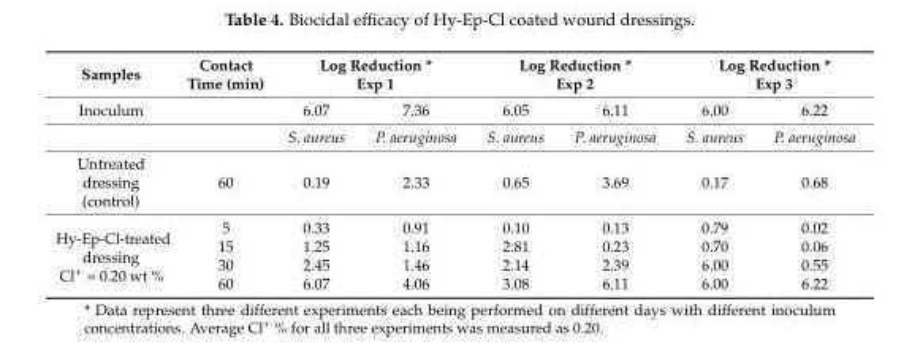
<table><thead><tr><td rowspan="2">Samples Inoculum</td><td rowspan="2">Contact Time (min)</td><td colspan="2">Log Reduction * Exp 1</td><td colspan="2">Log Reduction * Exp 2</td><td colspan="2">Log Reduction * Exp 3</td></tr><tr><td>6.07</td><td>7.36</td><td>6.05</td><td>6.11</td><td>6.00</td><td>6.22</td></tr></thead><tbody><tr><td></td><td></td><td>S. aureus</td><td>P. aeruginosa</td><td>S. aureus</td><td>P. aeruginosa</td><td>S. aureus</td><td>P. aeruginosa</td></tr><tr><td>Untreated dressing (control)</td><td>60</td><td>0.19</td><td>2.33</td><td>0.65</td><td>3.69</td><td>0.17</td><td>0.68</td></tr><tr><td rowspan="4">Hy-Ep-Cl-treated dressing Cl+ = 0.20 wt %</td><td>5</td><td>0.33</td><td>0.91</td><td>0.10</td><td>0.13</td><td>0.79</td><td>0.02</td></tr><tr><td>15</td><td>1.25</td><td>1.16</td><td>2.81</td><td>0.23</td><td>0.70</td><td>0.06</td></tr><tr><td>30</td><td>2.45</td><td>1.46</td><td>2.14</td><td>2.39</td><td>6.00</td><td>0.55</td></tr><tr><td>60</td><td>6.07</td><td>4.06</td><td>3.08</td><td>6.11</td><td>6.00</td><td>6.22</td></tr></tbody></table>